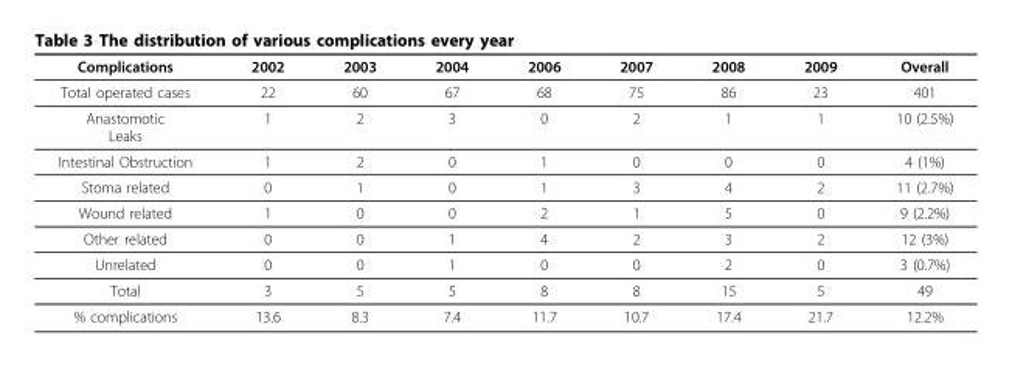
<table><thead><tr><td>Complications</td><td>2002</td><td>2003</td><td>2004</td><td>2006</td><td>2007</td><td>2008</td><td>2009</td><td>Overall</td></tr></thead><tbody><tr><td>Total operated cases</td><td>22</td><td>60</td><td>67</td><td>68</td><td>75</td><td>86</td><td>23</td><td>401</td></tr><tr><td>Anastomotic Leaks</td><td>1</td><td>2</td><td>3</td><td>0</td><td>2</td><td>1</td><td>1</td><td>10 (2.5%)</td></tr><tr><td>Intestinal Obstruction</td><td>1</td><td>2</td><td>0</td><td>1</td><td>0</td><td>0</td><td>0</td><td>4 (1%)</td></tr><tr><td>Stoma related</td><td>0</td><td>1</td><td>0</td><td>1</td><td>3</td><td>4</td><td>2</td><td>11 (2.7%)</td></tr><tr><td>Wound related</td><td>1</td><td>0</td><td>0</td><td>2</td><td>1</td><td>5</td><td>0</td><td>9 (2.2%)</td></tr><tr><td>Other related</td><td>0</td><td>0</td><td>1</td><td>4</td><td>2</td><td>3</td><td>2</td><td>12 (3%)</td></tr><tr><td>Unrelated</td><td>0</td><td>0</td><td>1</td><td>0</td><td>0</td><td>2</td><td>0</td><td>3 (0.7%)</td></tr><tr><td>Total</td><td>3</td><td>5</td><td>5</td><td>8</td><td>8</td><td>15</td><td>5</td><td>49</td></tr><tr><td>% complications</td><td>13.6</td><td>8.3</td><td>7.4</td><td>11.7</td><td>10.7</td><td>17.4</td><td>21.7</td><td>12.2%</td></tr></tbody></table>